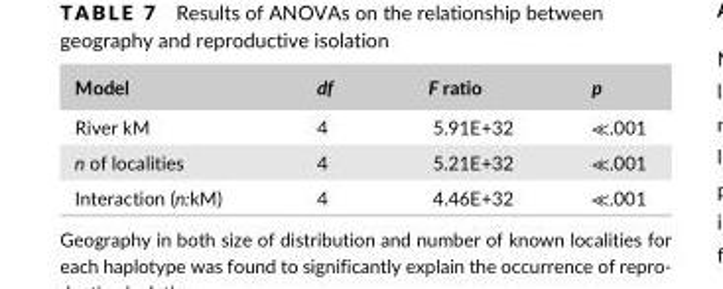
<table><thead><tr><td>Model</td><td>df</td><td>F ratio</td><td>p</td></tr></thead><tbody><tr><td>River kM</td><td>4</td><td>5.91E+32</td><td>≪.001</td></tr><tr><td>n of localities</td><td>4</td><td>5.21E+32</td><td>≪.001</td></tr><tr><td>Interaction (n:kM)</td><td>4</td><td>4.46E+32</td><td>≪.001</td></tr></tbody></table>